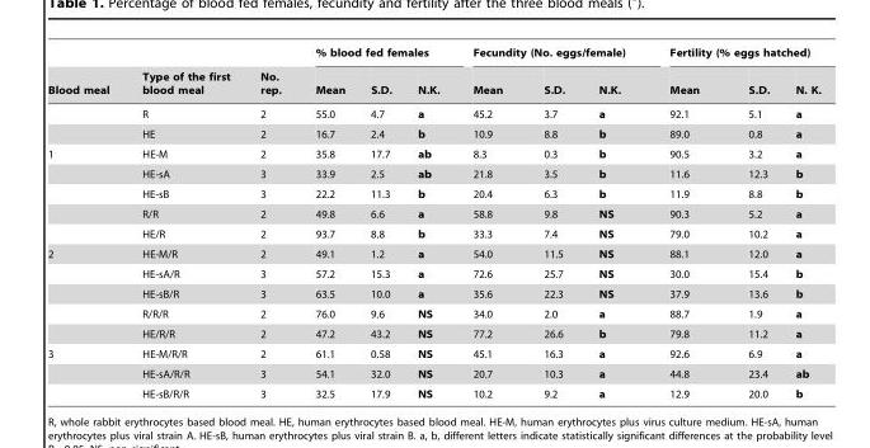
<table><thead><tr><td rowspan="2">Blood meal</td><td rowspan="2">Type of the first blood meal</td><td rowspan="2">No. rep.</td><td colspan="3">% blood fed females</td><td colspan="3">Fecundity (No. eggs/female)</td><td colspan="3">Fertility (% eggs hatched)</td></tr><tr><td>Mean</td><td>S.D.</td><td>N.K.</td><td>Mean</td><td>S.D.</td><td>N.K.</td><td>Mean</td><td>S.D.</td><td>N. K.</td></tr></thead><tbody><tr><td></td><td>R</td><td>2</td><td>55.0</td><td>4.7</td><td>a</td><td>45.2</td><td>3.7</td><td>a</td><td>92.1</td><td>5.1</td><td>a</td></tr><tr><td></td><td>HE</td><td>2</td><td>16.7</td><td>2.4</td><td>b</td><td>10.9</td><td>8.8</td><td>b</td><td>89.0</td><td>0.8</td><td>a</td></tr><tr><td rowspan="5">1</td><td>HE-M</td><td>2</td><td>35.8</td><td>17.7</td><td>ab</td><td>8.3</td><td>0.3</td><td>b</td><td>90.5</td><td>3.2</td><td>a</td></tr><tr><td>HE-sA</td><td>3</td><td>33.9</td><td>2.5</td><td>ab</td><td>21.8</td><td>3.5</td><td>b</td><td>11.6</td><td>12.3</td><td>b</td></tr><tr><td>HE-sB</td><td>3</td><td>22.2</td><td>11.3</td><td>b</td><td>20.4</td><td>6.3</td><td>b</td><td>11.9</td><td>8.8</td><td>b</td></tr><tr><td>R/R</td><td>2</td><td>49.8</td><td>6.6</td><td>a</td><td>58.8</td><td>9.8</td><td>NS</td><td>90.3</td><td>5.2</td><td>a</td></tr><tr><td>HE/R</td><td>2</td><td>93.7</td><td>8.8</td><td>b</td><td>33.3</td><td>7.4</td><td>NS</td><td>79.0</td><td>10.2</td><td>a</td></tr><tr><td rowspan="5">2</td><td>HE-M/R</td><td>2</td><td>49.1</td><td>1.2</td><td>a</td><td>54.0</td><td>11.5</td><td>NS</td><td>88.1</td><td>12.0</td><td>a</td></tr><tr><td>HE-sA/R</td><td>3</td><td>57.2</td><td>15.3</td><td>a</td><td>72.6</td><td>25.7</td><td>NS</td><td>30.0</td><td>15.4</td><td>b</td></tr><tr><td>HE-sB/R</td><td>3</td><td>63.5</td><td>10.0</td><td>a</td><td>35.6</td><td>22.3</td><td>NS</td><td>37.9</td><td>13.6</td><td>b</td></tr><tr><td>R/R/R</td><td>2</td><td>76.0</td><td>9.6</td><td>NS</td><td>34.0</td><td>2.0</td><td>a</td><td>88.7</td><td>1.9</td><td>a</td></tr><tr><td>HE/R/R</td><td>2</td><td>47.2</td><td>43.2</td><td>NS</td><td>77.2</td><td>26.6</td><td>b</td><td>79.8</td><td>11.2</td><td>a</td></tr><tr><td rowspan="3">3</td><td>HE-M/R/R</td><td>2</td><td>61.1</td><td>0.58</td><td>NS</td><td>45.1</td><td>16.3</td><td>a</td><td>92.6</td><td>6.9</td><td>a</td></tr><tr><td>HE-sA/R/R</td><td>3</td><td>54.1</td><td>32.0</td><td>NS</td><td>20.7</td><td>10.3</td><td>a</td><td>44.8</td><td>23.4</td><td>ab</td></tr><tr><td>HE-sB/R/R</td><td>3</td><td>32.5</td><td>17.9</td><td>NS</td><td>10.2</td><td>9.2</td><td>a</td><td>12.9</td><td>20.0</td><td>b</td></tr></tbody></table>